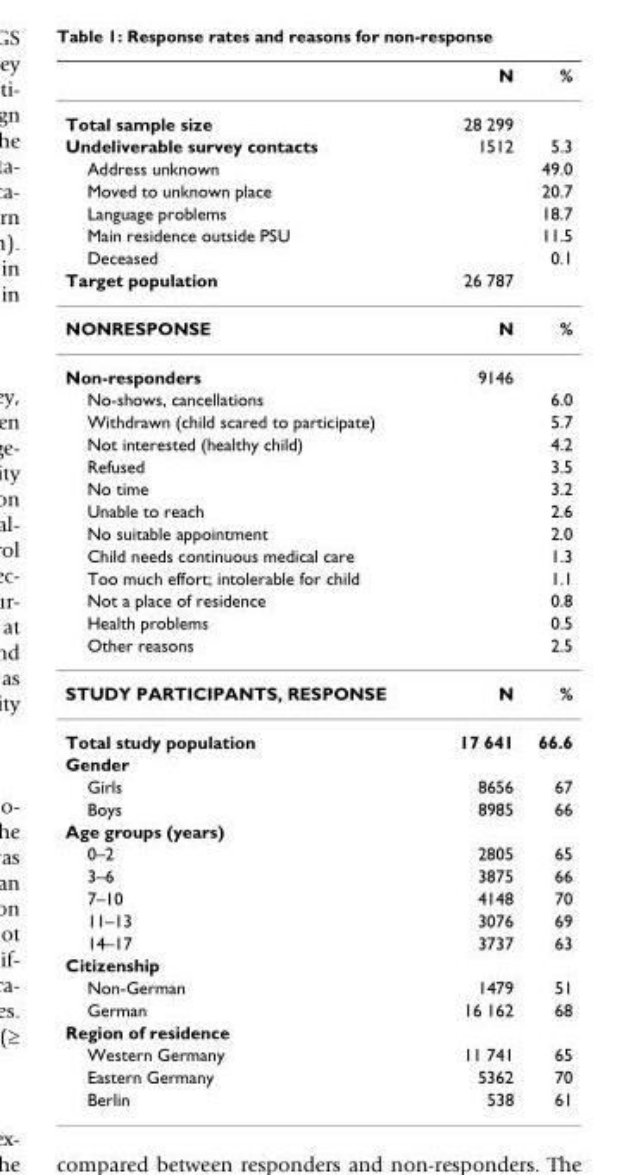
<table><thead><tr><td></td><td>N</td><td>%</td></tr></thead><tbody><tr><td>Total sample size</td><td>28 299</td><td></td></tr><tr><td>Undeliverable survey contacts</td><td>1512</td><td>5.3</td></tr><tr><td>Address unknown</td><td></td><td>49.0</td></tr><tr><td>Moved to unknown place</td><td></td><td>20.7</td></tr><tr><td>Language problems</td><td></td><td>18.7</td></tr><tr><td>Main residence outside PSU</td><td></td><td>11.5</td></tr><tr><td>Deceased</td><td></td><td>0.1</td></tr><tr><td>Target population</td><td>26 787</td><td></td></tr><tr><td>NONRESPONSE</td><td>N</td><td>%</td></tr><tr><td>Non-responders</td><td>9146</td><td></td></tr><tr><td>No-shows, cancellations</td><td></td><td>6.0</td></tr><tr><td>Withdrawn (child scared to participate)</td><td></td><td>5.7</td></tr><tr><td>Not interested (healthy child)</td><td></td><td>4.2</td></tr><tr><td>Refused</td><td></td><td>3.5</td></tr><tr><td>No time</td><td></td><td>3.2</td></tr><tr><td>Unable to reach</td><td></td><td>2.6</td></tr><tr><td>No suitable appointment</td><td></td><td>2.0</td></tr><tr><td>Child needs continuous medical care</td><td></td><td>1.3</td></tr><tr><td>Too much effort; intolerable for child</td><td></td><td>1.1</td></tr><tr><td>Not a place of residence</td><td></td><td>0.8</td></tr><tr><td>Health problems</td><td></td><td>0.5</td></tr><tr><td>Other reasons</td><td></td><td>2.5</td></tr><tr><td>STUDY PARTICIPANTS, RESPONSE</td><td>N</td><td>%</td></tr><tr><td>Total study population</td><td>17 641</td><td>66.6</td></tr><tr><td colspan="3">Gender</td></tr><tr><td>Girls</td><td>8656</td><td>67</td></tr><tr><td>Boys</td><td>8985</td><td>66</td></tr><tr><td colspan="3">Age groups (years)</td></tr><tr><td>0–2</td><td>2805</td><td>65</td></tr><tr><td>3–6</td><td>3875</td><td>66</td></tr><tr><td>7–10</td><td>4148</td><td>70</td></tr><tr><td>11–13</td><td>3076</td><td>69</td></tr><tr><td>14–17</td><td>3737</td><td>63</td></tr><tr><td colspan="3">Citizenship</td></tr><tr><td>Non-German</td><td>1479</td><td>51</td></tr><tr><td>German</td><td>16 162</td><td>68</td></tr><tr><td colspan="3">Region of residence</td></tr><tr><td>Western Germany</td><td>11 741</td><td>65</td></tr><tr><td>Eastern Germany</td><td>5362</td><td>70</td></tr><tr><td>Berlin</td><td>538</td><td>61</td></tr></tbody></table>